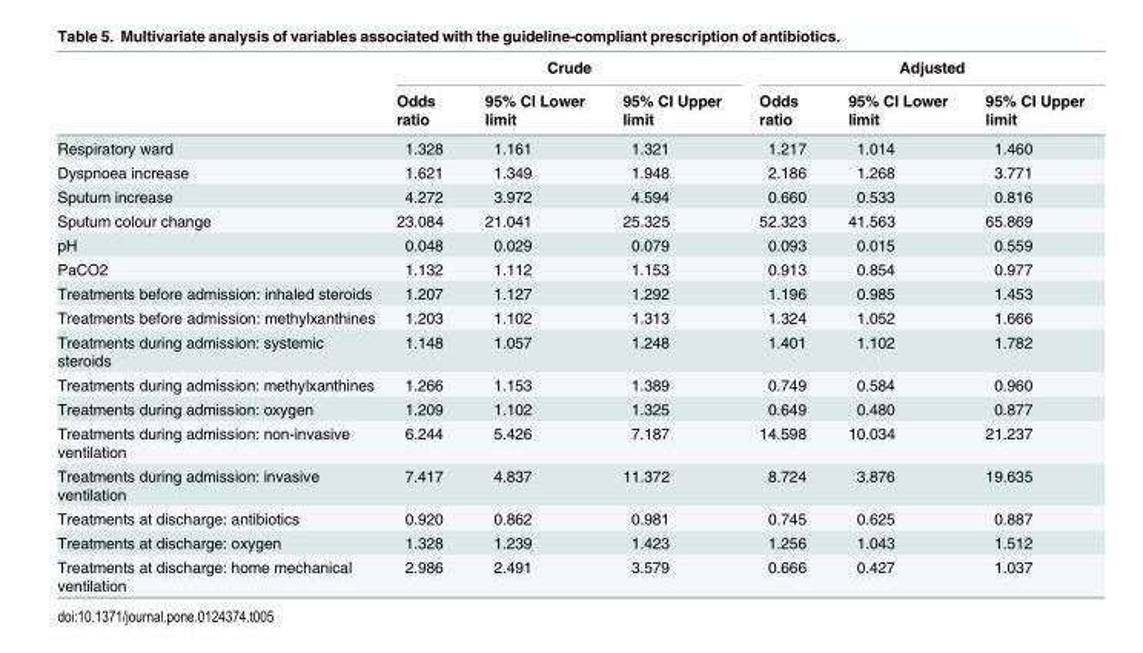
<table><thead><tr><td rowspan="2"></td><td colspan="3">Crude</td><td colspan="3">Adjusted</td></tr><tr><td>Odds ratio</td><td>95% CI Lower limit</td><td>95% CI Upper limit</td><td>Odds ratio</td><td>95% CI Lower limit</td><td>95% CI Upper limit</td></tr></thead><tbody><tr><td>Respiratory ward</td><td>1.328</td><td>1.161</td><td>1.321</td><td>1.217</td><td>1.014</td><td>1.460</td></tr><tr><td>Dyspnoea increase</td><td>1.621</td><td>1.349</td><td>1.948</td><td>2.186</td><td>1.268</td><td>3.771</td></tr><tr><td>Sputum increase</td><td>4.272</td><td>3.972</td><td>4.594</td><td>0.660</td><td>0.533</td><td>0.816</td></tr><tr><td>Sputum colour change</td><td>23.084</td><td>21.041</td><td>25.325</td><td>52.323</td><td>41.563</td><td>65.869</td></tr><tr><td>pH</td><td>0.048</td><td>0.029</td><td>0.079</td><td>0.093</td><td>0.015</td><td>0.559</td></tr><tr><td>PaCO2</td><td>1.132</td><td>1.112</td><td>1.153</td><td>0.913</td><td>0.854</td><td>0.977</td></tr><tr><td>Treatments before admission: inhaled steroids</td><td>1.207</td><td>1.127</td><td>1.292</td><td>1.196</td><td>0.985</td><td>1.453</td></tr><tr><td>Treatments before admission: methylxanthines</td><td>1.203</td><td>1.102</td><td>1.313</td><td>1.324</td><td>1.052</td><td>1.666</td></tr><tr><td>Treatments during admission: systemic steroids</td><td>1.148</td><td>1.057</td><td>1.248</td><td>1.401</td><td>1.102</td><td>1.782</td></tr><tr><td>Treatments during admission: methylxanthines</td><td>1.266</td><td>1.153</td><td>1.389</td><td>0.749</td><td>0.584</td><td>0.960</td></tr><tr><td>Treatments during admission: oxygen</td><td>1.209</td><td>1.102</td><td>1.325</td><td>0.649</td><td>0.480</td><td>0.877</td></tr><tr><td>Treatments during admission: non-invasive ventilation</td><td>6.244</td><td>5.426</td><td>7.187</td><td>14.598</td><td>10.034</td><td>21.237</td></tr><tr><td>Treatments during admission: invasive ventilation</td><td>7.417</td><td>4.837</td><td>11.372</td><td>8.724</td><td>3.876</td><td>19.635</td></tr><tr><td>Treatments at discharge: antibiotics</td><td>0.920</td><td>0.862</td><td>0.981</td><td>0.745</td><td>0.625</td><td>0.887</td></tr><tr><td>Treatments at discharge: oxygen</td><td>1.328</td><td>1.239</td><td>1.423</td><td>1.256</td><td>1.043</td><td>1.512</td></tr><tr><td>Treatments at discharge: home mechanical ventilation</td><td>2.986</td><td>2.491</td><td>3.579</td><td>0.666</td><td>0.427</td><td>1.037</td></tr></tbody></table>